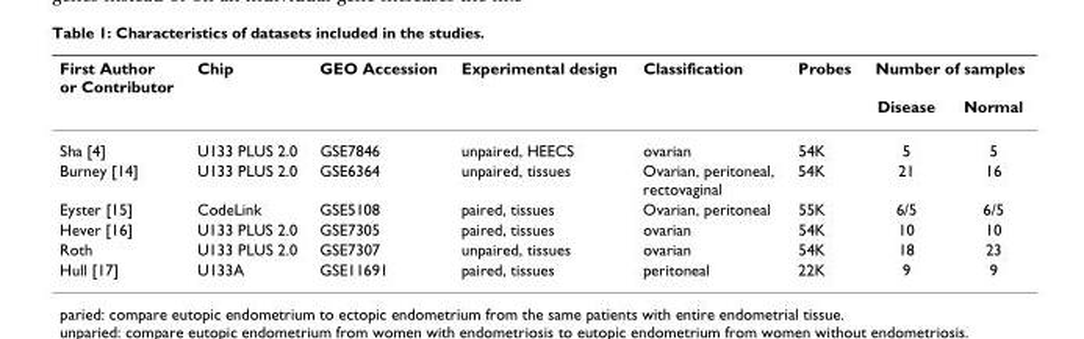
<table><thead><tr><td rowspan="2">First Author or Contributor</td><td rowspan="2">Chip</td><td rowspan="2">GEO Accession</td><td rowspan="2">Experimental design</td><td rowspan="2">Classification</td><td rowspan="2">Probes</td><td colspan="2">Number of samples</td></tr><tr><td>Disease</td><td>Normal</td></tr></thead><tbody><tr><td>Sha [4]</td><td>U133 PLUS 2.0</td><td>GSE7846</td><td>unpaired, HEECS</td><td>ovarian</td><td>54K</td><td>5</td><td>5</td></tr><tr><td>Burney [14]</td><td>U133 PLUS 2.0</td><td>GSE6364</td><td>unpaired, tissues</td><td>Ovarian, peritoneal, rectovaginal</td><td>54K</td><td>21</td><td>16</td></tr><tr><td>Eyster [15]</td><td>CodeLink</td><td>GSE5108</td><td>paired, tissues</td><td>Ovarian, peritoneal</td><td>55K</td><td>6/5</td><td>6/5</td></tr><tr><td>Hever [16]</td><td>U133 PLUS 2.0</td><td>GSE7305</td><td>paired, tissues</td><td>ovarian</td><td>54K</td><td>10</td><td>10</td></tr><tr><td>Roth</td><td>U133 PLUS 2.0</td><td>GSE7307</td><td>unpaired, tissues</td><td>ovarian</td><td>54K</td><td>18</td><td>23</td></tr><tr><td>Hull [17]</td><td>U133A</td><td>GSE11691</td><td>paired, tissues</td><td>peritoneal</td><td>22K</td><td>9</td><td>9</td></tr></tbody></table>